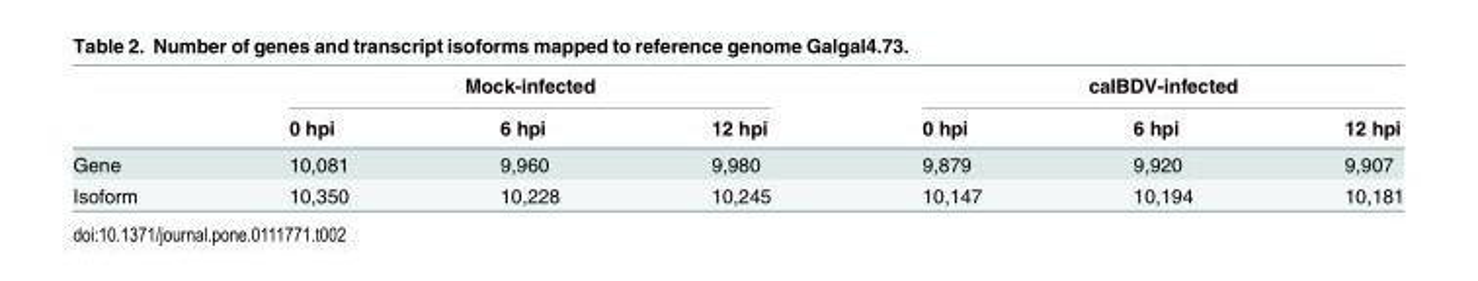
<table><thead><tr><td rowspan="2"></td><td colspan="3">Mock-infected</td><td colspan="3">caIBDV-infected</td></tr><tr><td>0 hpi</td><td>6 hpi</td><td>12 hpi</td><td>0 hpi</td><td>6 hpi</td><td>12 hpi</td></tr></thead><tbody><tr><td>Gene</td><td>10,081</td><td>9,960</td><td>9,980</td><td>9,879</td><td>9,920</td><td>9,907</td></tr><tr><td>Isoform</td><td>10,350</td><td>10,228</td><td>10,245</td><td>10,147</td><td>10,194</td><td>10,181</td></tr></tbody></table>